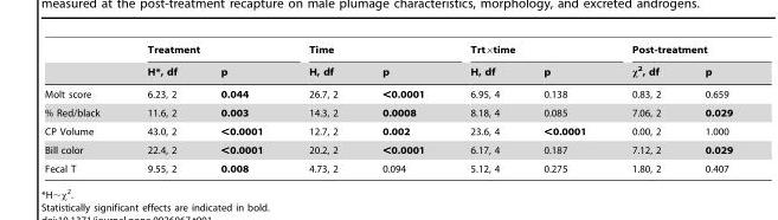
<table><thead><tr><td rowspan="2"></td><td colspan="2">Treatment</td><td colspan="2">Time</td><td colspan="2">Trt×time</td><td colspan="2">Post-treatment</td></tr><tr><td>H*, df</td><td>p</td><td>H, df</td><td>p</td><td>H, df</td><td>p</td><td>χ<sup>2</sup>, df</td><td>p</td></tr></thead><tbody><tr><td>Molt score</td><td>6.23, 2</td><td>0.044</td><td>26.7, 2</td><td>&lt;0.0001</td><td>6.95, 4</td><td>0.138</td><td>0.83, 2</td><td>0.659</td></tr><tr><td>% Red/black</td><td>11.6, 2</td><td>0.003</td><td>14.3, 2</td><td>0.0008</td><td>8.18, 4</td><td>0.085</td><td>7.06, 2</td><td>0.029</td></tr><tr><td>CP Volume</td><td>43.0, 2</td><td>&lt;0.0001</td><td>12.7, 2</td><td>0.002</td><td>23.6, 4</td><td>&lt;0.0001</td><td>0.00, 2</td><td>1.000</td></tr><tr><td>Bill color</td><td>22.4, 2</td><td>&lt;0.0001</td><td>20.2, 2</td><td>&lt;0.0001</td><td>6.17, 4</td><td>0.187</td><td>7.12, 2</td><td>0.029</td></tr><tr><td>Fecal T</td><td>9.55, 2</td><td>0.008</td><td>4.73, 2</td><td>0.094</td><td>5.12, 4</td><td>0.275</td><td>1.80, 2</td><td>0.407</td></tr></tbody></table>